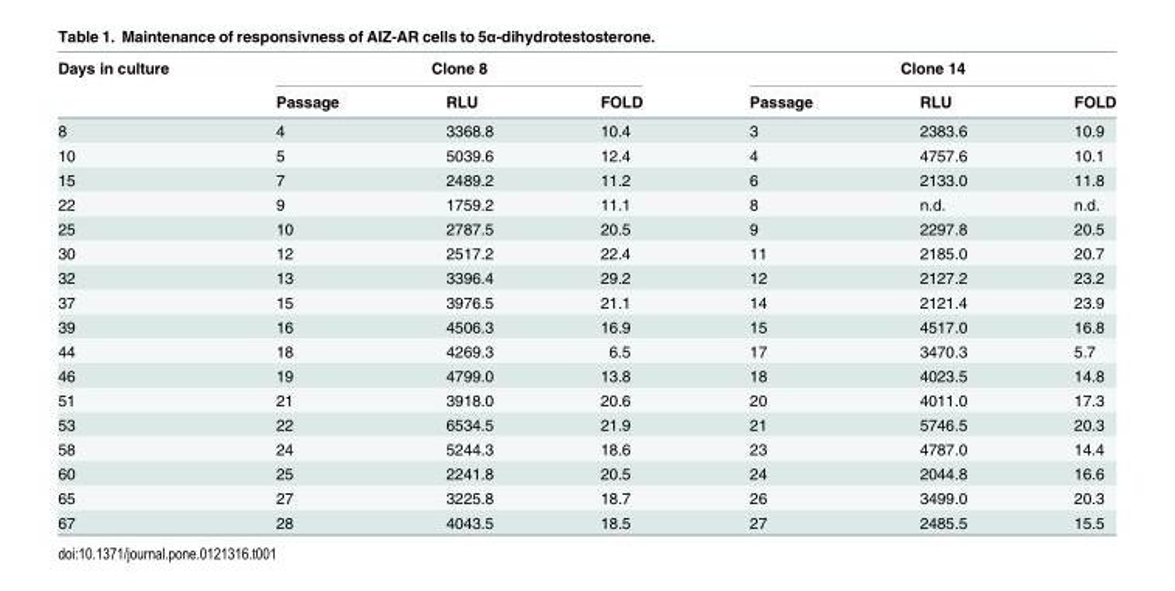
<table><thead><tr><td rowspan="2">Days in culture</td><td colspan="3">Clone 8</td><td colspan="3">Clone 14</td></tr><tr><td>Passage</td><td>RLU</td><td>FOLD</td><td>Passage</td><td>RLU</td><td>FOLD</td></tr></thead><tbody><tr><td>8</td><td>4</td><td>3368.8</td><td>10.4</td><td>3</td><td>2383.6</td><td>10.9</td></tr><tr><td>10</td><td>5</td><td>5039.6</td><td>12.4</td><td>4</td><td>4757.6</td><td>10.1</td></tr><tr><td>15</td><td>7</td><td>2489.2</td><td>11.2</td><td>6</td><td>2133.0</td><td>11.8</td></tr><tr><td>22</td><td>9</td><td>1759.2</td><td>11.1</td><td>8</td><td>n.d.</td><td>n.d.</td></tr><tr><td>25</td><td>10</td><td>2787.5</td><td>20.5</td><td>9</td><td>2297.8</td><td>20.5</td></tr><tr><td>30</td><td>12</td><td>2517.2</td><td>22.4</td><td>11</td><td>2185.0</td><td>20.7</td></tr><tr><td>32</td><td>13</td><td>3396.4</td><td>29.2</td><td>12</td><td>2127.2</td><td>23.2</td></tr><tr><td>37</td><td>15</td><td>3976.5</td><td>21.1</td><td>14</td><td>2121.4</td><td>23.9</td></tr><tr><td>39</td><td>16</td><td>4506.3</td><td>16.9</td><td>15</td><td>4517.0</td><td>16.8</td></tr><tr><td>44</td><td>18</td><td>4269.3</td><td>6.5</td><td>17</td><td>3470.3</td><td>5.7</td></tr><tr><td>46</td><td>19</td><td>4799.0</td><td>13.8</td><td>18</td><td>4023.5</td><td>14.8</td></tr><tr><td>51</td><td>21</td><td>3918.0</td><td>20.6</td><td>20</td><td>4011.0</td><td>17.3</td></tr><tr><td>53</td><td>22</td><td>6534.5</td><td>21.9</td><td>21</td><td>5746.5</td><td>20.3</td></tr><tr><td>58</td><td>24</td><td>5244.3</td><td>18.6</td><td>23</td><td>4787.0</td><td>14.4</td></tr><tr><td>60</td><td>25</td><td>2241.8</td><td>20.5</td><td>24</td><td>2044.8</td><td>16.6</td></tr><tr><td>65</td><td>27</td><td>3225.8</td><td>18.7</td><td>26</td><td>3499.0</td><td>20.3</td></tr><tr><td>67</td><td>28</td><td>4043.5</td><td>18.5</td><td>27</td><td>2485.5</td><td>15.5</td></tr></tbody></table>